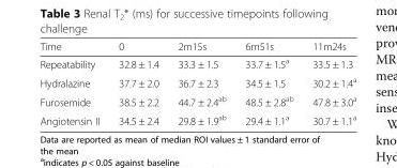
<table><thead><tr><td>Time</td><td>0</td><td>2m15s</td><td>6m51s</td><td>11m24s</td></tr></thead><tbody><tr><td>Repeatability</td><td>32.8 ± 1.4</td><td>33.3 ± 1.5</td><td>33.7 ± 1.5<sup>a</sup></td><td>33.5 ± 1.3</td></tr><tr><td>Hydralazine</td><td>37.7 ± 2.0</td><td>36.7 ± 2.3</td><td>34.5 ± 1.5</td><td>30.2 ± 1.4<sup>a</sup></td></tr><tr><td>Furosemide</td><td>38.5 ± 2.2</td><td>44.7 ± 2.4<sup>ab</sup></td><td>48.5 ± 2.8<sup>ab</sup></td><td>47.8 ± 3.0<sup>a</sup></td></tr><tr><td>Angiotensin II</td><td>34.5 ± 2.4</td><td>29.8 ± 1.9<sup>ab</sup></td><td>29.4 ± 1.1<sup>a</sup></td><td>30.7 ± 1.1<sup>a</sup></td></tr></tbody></table>